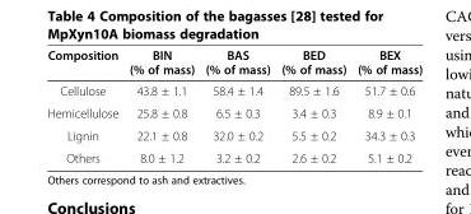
<table><thead><tr><td>Composition</td><td>BIN (% of mass)</td><td>BAS (% of mass)</td><td>BED (% of mass)</td><td>BEX (% of mass)</td></tr></thead><tbody><tr><td>Cellulose</td><td>43.8 ± 1.1</td><td>58.4 ± 1.4</td><td>89.5 ± 1.6</td><td>51.7 ± 0.6</td></tr><tr><td>Hemicellulose</td><td>25.8 ± 0.8</td><td>6.5 ± 0.3</td><td>3.4 ± 0.3</td><td>8.9 ± 0.1</td></tr><tr><td>Lignin</td><td>22.1 ± 0.8</td><td>32.0 ± 0.2</td><td>5.5 ± 0.2</td><td>34.3 ± 0.3</td></tr><tr><td>Others</td><td>8.0 ± 1.2</td><td>3.2 ± 0.2</td><td>2.6 ± 0.2</td><td>5.1 ± 0.2</td></tr></tbody></table>